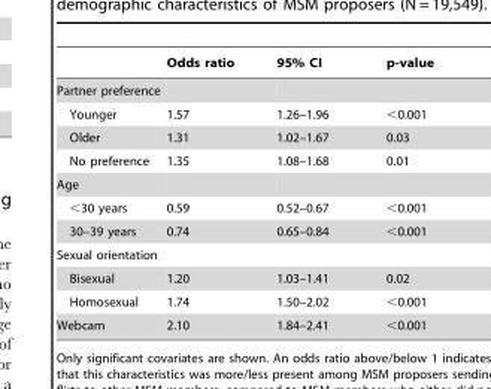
<table><thead><tr><td></td><td>Odds ratio</td><td>95% CI</td><td>p-value</td></tr></thead><tbody><tr><td colspan="4">Partner preference</td></tr><tr><td>Younger</td><td>1.57</td><td>1.26–1.96</td><td>&lt;0.001</td></tr><tr><td>Older</td><td>1.31</td><td>1.02–1.67</td><td>0.03</td></tr><tr><td>No preference</td><td>1.35</td><td>1.08–1.68</td><td>0.01</td></tr><tr><td colspan="4">Age</td></tr><tr><td>&lt;30 years</td><td>0.59</td><td>0.52–0.67</td><td>&lt;0.001</td></tr><tr><td>30–39 years</td><td>0.74</td><td>0.65–0.84</td><td>&lt;0.001</td></tr><tr><td colspan="4">Sexual orientation</td></tr><tr><td>Bisexual</td><td>1.20</td><td>1.03–1.41</td><td>0.02</td></tr><tr><td>Homosexual</td><td>1.74</td><td>1.50–2.02</td><td>&lt;0.001</td></tr><tr><td>Webcam</td><td>2.10</td><td>1.84–2.41</td><td>&lt;0.001</td></tr></tbody></table>